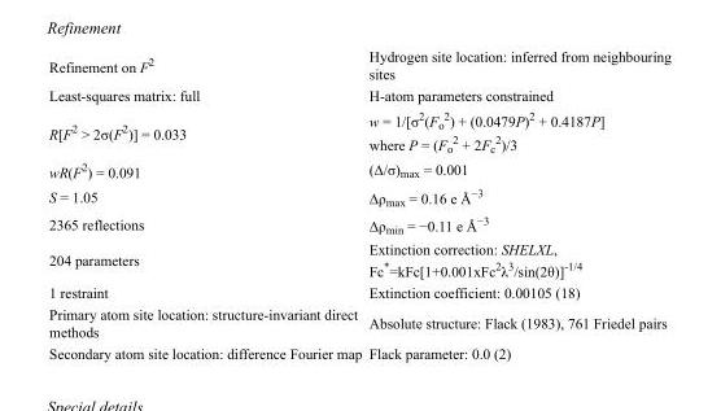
<table><tbody><tr><td>Refinement on F<sup>2</sup></td><td>Hydrogen site location: inferred from neighbouring sites</td></tr><tr><td>Least-squares matrix: full</td><td>H-atom parameters constrained</td></tr><tr><td>R[F<sup>2</sup> &gt; 2σ(F<sup>2</sup>)] = 0.033</td><td>w = 1/[σ<sup>2</sup>(F<sub>o</sub> <sup>2</sup>) + (0.0479P)<sup>2</sup> + 0.4187P] where P = (F<sub>o</sub> <sup>2</sup> + 2F<sub>c</sub> <sup>2</sup>)/3</td></tr><tr><td>wR(F<sup>2</sup>) = 0.091</td><td>(Δ/σ)<sub>max</sub> = 0.001</td></tr><tr><td>S = 1.05</td><td>Δρ<sub>max</sub> = 0.16 e Å<sup>−3</sup></td></tr><tr><td>2365 reflections</td><td>Δρ<sub>min</sub> = −0.11 e Å<sup>−3</sup></td></tr><tr><td>204 parameters</td><td>Extinction correction: SHELXL, Fc*=kFc[1+0.001xFc<sup>2</sup>λ<sup>3</sup>/sin(2θ)]<sup>-1/4</sup></td></tr><tr><td>1 restraint</td><td>Extinction coefficient: 0.00105 (18)</td></tr><tr><td>Primary atom site location: structure-invariant direct methods</td><td>Absolute structure: Flack (1983), 761 Friedel pairs</td></tr><tr><td>Secondary atom site location: difference Fourier map</td><td>Flack parameter: 0.0 (2)</td></tr></tbody></table>